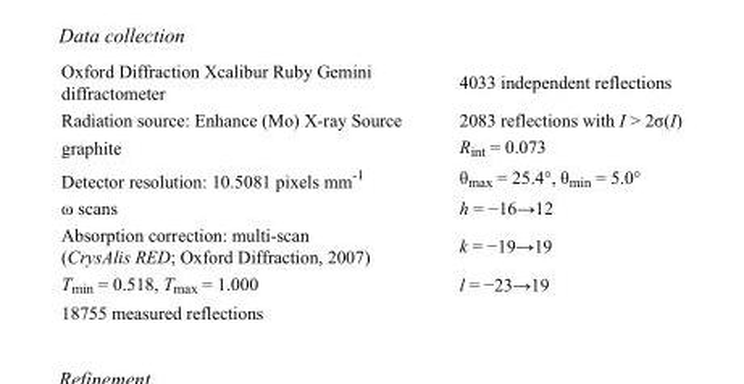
<table><tbody><tr><td>Oxford Diffraction Xcalibur Ruby Gemini diffractometer</td><td>4033 independent reflections</td></tr><tr><td>Radiation source: Enhance (Mo) X-ray Source</td><td>2083 reflections with I &gt; 2σ(I)</td></tr><tr><td>graphite</td><td>R<sub>int</sub> = 0.073</td></tr><tr><td>Detector resolution: 10.5081 pixels mm<sup>-1</sup></td><td>θ<sub>max</sub> = 25.4°, θ<sub>min</sub> = 5.0°</td></tr><tr><td>ω scans</td><td>h = −16→12</td></tr><tr><td>Absorption correction: multi-scan (CrysAlis RED; Oxford Diffraction, 2007)</td><td>k = −19→19</td></tr><tr><td>T<sub>min</sub> = 0.518, T<sub>max</sub> = 1.000</td><td>l = −23→19</td></tr><tr><td>18755 measured reflections</td><td></td></tr></tbody></table>